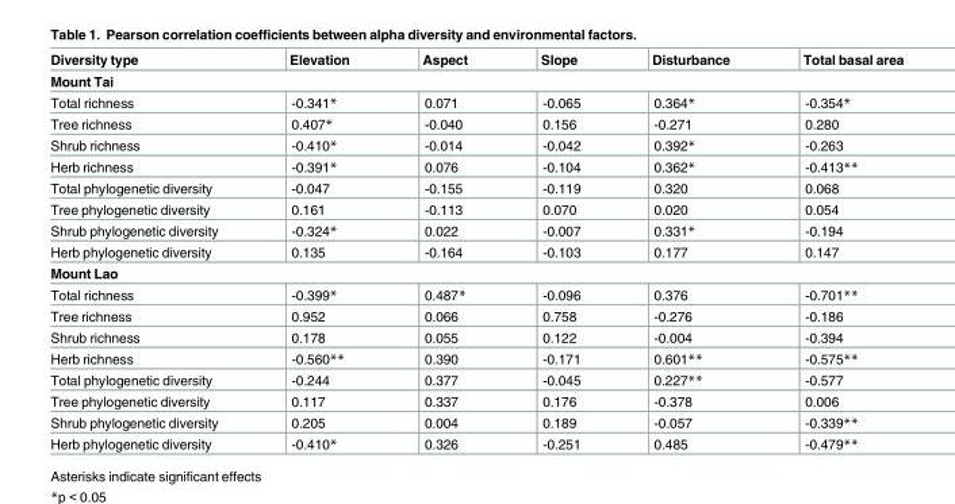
<table><thead><tr><td>Diversity type</td><td>Elevation</td><td>Aspect</td><td>Slope</td><td>Disturbance</td><td>Total basal area</td></tr></thead><tbody><tr><td colspan="6">Mount Tai</td></tr><tr><td>Total richness</td><td>-0.341*</td><td>0.071</td><td>-0.065</td><td>0.364*</td><td>-0.354*</td></tr><tr><td>Tree richness</td><td>0.407*</td><td>-0.040</td><td>0.156</td><td>-0.271</td><td>0.280</td></tr><tr><td>Shrub richness</td><td>-0.410*</td><td>-0.014</td><td>-0.042</td><td>0.392*</td><td>-0.263</td></tr><tr><td>Herb richness</td><td>-0.391*</td><td>0.076</td><td>-0.104</td><td>0.362*</td><td>-0.413**</td></tr><tr><td>Total phylogenetic diversity</td><td>-0.047</td><td>-0.155</td><td>-0.119</td><td>0.320</td><td>0.068</td></tr><tr><td>Tree phylogenetic diversity</td><td>0.161</td><td>-0.113</td><td>0.070</td><td>0.020</td><td>0.054</td></tr><tr><td>Shrub phylogenetic diversity</td><td>-0.324*</td><td>0.022</td><td>-0.007</td><td>0.331*</td><td>-0.194</td></tr><tr><td>Herb phylogenetic diversity</td><td>0.135</td><td>-0.164</td><td>-0.103</td><td>0.177</td><td>0.147</td></tr><tr><td colspan="6">Mount Lao</td></tr><tr><td>Total richness</td><td>-0.399*</td><td>0.487*</td><td>-0.096</td><td>0.376</td><td>-0.701**</td></tr><tr><td>Tree richness</td><td>0.952</td><td>0.066</td><td>0.758</td><td>-0.276</td><td>-0.186</td></tr><tr><td>Shrub richness</td><td>0.178</td><td>0.055</td><td>0.122</td><td>-0.004</td><td>-0.394</td></tr><tr><td>Herb richness</td><td>-0.560**</td><td>0.390</td><td>-0.171</td><td>0.601**</td><td>-0.575**</td></tr><tr><td>Total phylogenetic diversity</td><td>-0.244</td><td>0.377</td><td>-0.045</td><td>0.227**</td><td>-0.577</td></tr><tr><td>Tree phylogenetic diversity</td><td>0.117</td><td>0.337</td><td>0.176</td><td>-0.378</td><td>0.006</td></tr><tr><td>Shrub phylogenetic diversity</td><td>0.205</td><td>0.004</td><td>0.189</td><td>-0.057</td><td>-0.339**</td></tr><tr><td>Herb phylogenetic diversity</td><td>-0.410*</td><td>0.326</td><td>-0.251</td><td>0.485</td><td>-0.479**</td></tr></tbody></table>